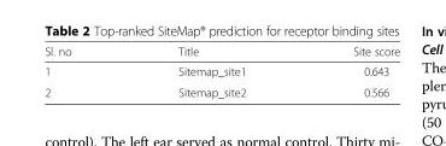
<table><thead><tr><td>Sl. no</td><td>Title</td><td>Site score</td></tr></thead><tbody><tr><td>1</td><td>Sitemap_site1</td><td>0.643</td></tr><tr><td>2</td><td>Sitemap_site2</td><td>0.566</td></tr></tbody></table>